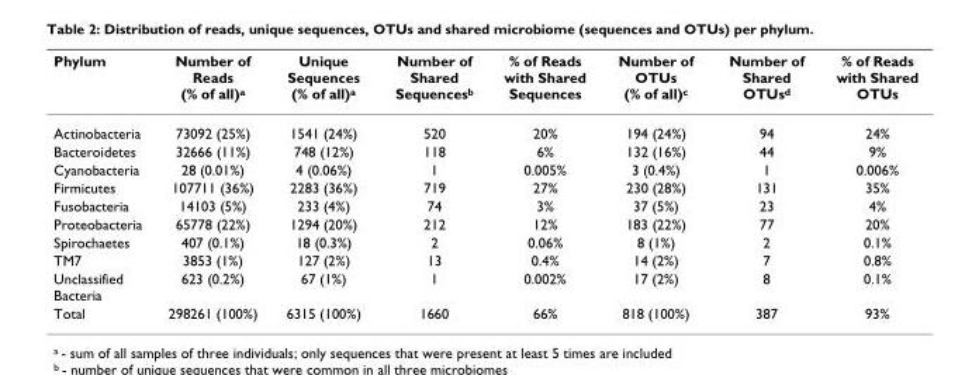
<table><thead><tr><td>Phylum</td><td>Number of Reads (% of all)<sup>a</sup></td><td>Unique Sequences (% of all)<sup>a</sup></td><td>Number of Shared Sequences<sup>b</sup></td><td>% of Reads with Shared Sequences</td><td>Number of OTUs (% of all)<sup>c</sup></td><td>Number of Shared OTUs<sup>d</sup></td><td>% of Reads with Shared OTUs</td></tr></thead><tbody><tr><td>Actinobacteria</td><td>73092 (25%)</td><td>1541 (24%)</td><td>520</td><td>20%</td><td>194 (24%)</td><td>94</td><td>24%</td></tr><tr><td>Bacteroidetes</td><td>32666 (11%)</td><td>748 (12%)</td><td>118</td><td>6%</td><td>132 (16%)</td><td>44</td><td>9%</td></tr><tr><td>Cyanobacteria</td><td>28 (0.01%)</td><td>4 (0.06%)</td><td>1</td><td>0.005%</td><td>3 (0.4%)</td><td>1</td><td>0.006%</td></tr><tr><td>Firmicutes</td><td>107711 (36%)</td><td>2283 (36%)</td><td>719</td><td>27%</td><td>230 (28%)</td><td>131</td><td>35%</td></tr><tr><td>Fusobacteria</td><td>14103 (5%)</td><td>233 (4%)</td><td>74</td><td>3%</td><td>37 (5%)</td><td>23</td><td>4%</td></tr><tr><td>Proteobacteria</td><td>65778 (22%)</td><td>1294 (20%)</td><td>212</td><td>12%</td><td>183 (22%)</td><td>77</td><td>20%</td></tr><tr><td>Spirochaetes</td><td>407 (0.1%)</td><td>18 (0.3%)</td><td>2</td><td>0.06%</td><td>8 (1%)</td><td>2</td><td>0.1%</td></tr><tr><td>TM7</td><td>3853 (1%)</td><td>127 (2%)</td><td>13</td><td>0.4%</td><td>14 (2%)</td><td>7</td><td>0.8%</td></tr><tr><td>Unclassified Bacteria</td><td>623 (0.2%)</td><td>67 (1%)</td><td>1</td><td>0.002%</td><td>17 (2%)</td><td>8</td><td>0.1%</td></tr><tr><td>Total</td><td>298261 (100%)</td><td>6315 (100%)</td><td>1660</td><td>66%</td><td>818 (100%)</td><td>387</td><td>93%</td></tr></tbody></table>